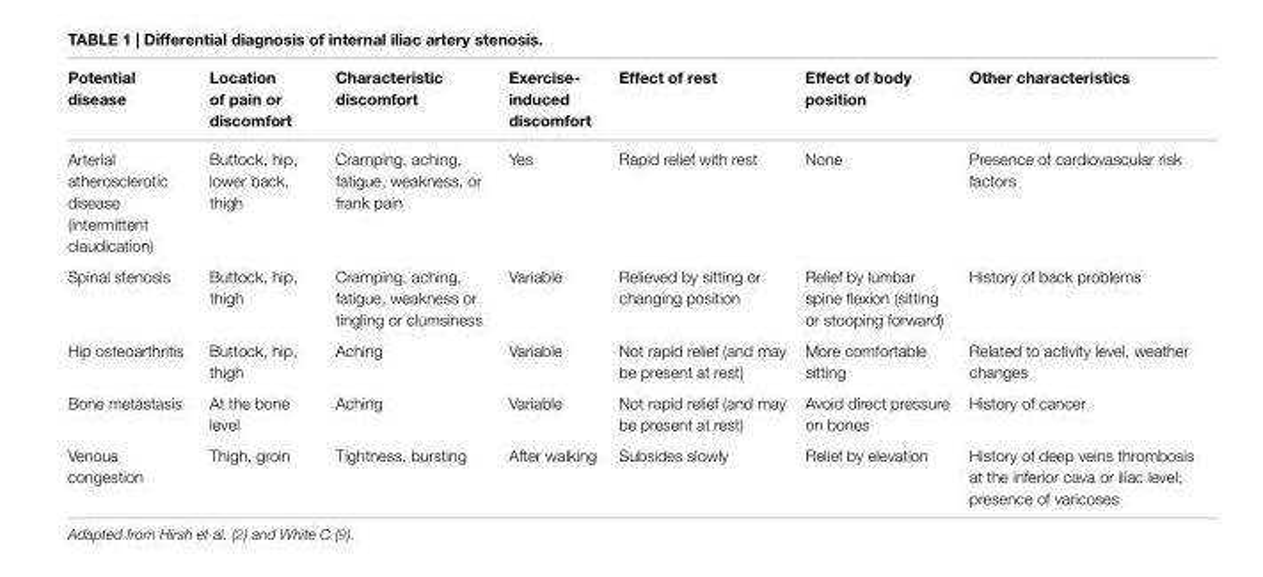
<table><thead><tr><td>Potential disease</td><td>Location of pain or discomfort</td><td>Characteristic discomfort</td><td>exercise- induced discomfort</td><td>effect of rest</td><td>effect of body position</td><td>Other characteristics</td></tr></thead><tbody><tr><td>Arterial atherosclerotic disease (intermittent claudication)</td><td>Buttock, hip, lower back, thigh</td><td>Cramping, aching, fatigue, weakness, or frank pain</td><td>Yes</td><td>Rapid relief with rest</td><td>None</td><td>Presence of cardiovascular risk factors</td></tr><tr><td>Spinal stenosis</td><td>Buttock, hip, thigh</td><td>Cramping, aching, fatigue, weakness or tingling or clumsiness</td><td>Variable</td><td>Relieved by sitting or changing position</td><td>Relief by lumbar spine flexion (sitting or stooping forward)</td><td>History of back problems</td></tr><tr><td>Hip osteoarthritis</td><td>Buttock, hip, thigh</td><td>Aching</td><td>Variable</td><td>Not rapid relief (and may be present at rest)</td><td>More comfortable sitting</td><td>Related to activity level, weather changes</td></tr><tr><td>Bone metastasis</td><td>At the bone level</td><td>Aching</td><td>Variable</td><td>Not rapid relief (and may be present at rest)</td><td>Avoid direct pressure on bones</td><td>History of cancer</td></tr><tr><td>Venous congestion</td><td>Thigh, groin</td><td>Tightness, bursting</td><td>After walking</td><td>Subsides slowly</td><td>Relief by elevation</td><td>History of deep veins thrombosis at the inferior cava or iliac level; presence of varicoses</td></tr></tbody></table>